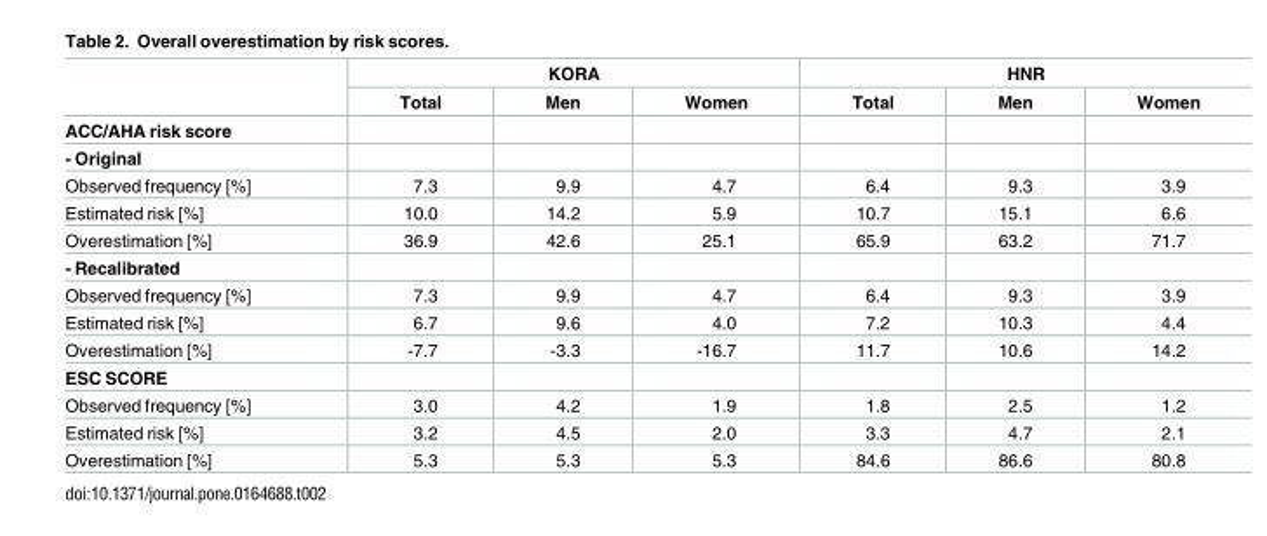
<table><thead><tr><td rowspan="2"></td><td colspan="3">KORA</td><td colspan="3">HNR</td></tr><tr><td>Total</td><td>Men</td><td>Women</td><td>Total</td><td>Men</td><td>Women</td></tr></thead><tbody><tr><td colspan="7">ACC/AHA risk score</td></tr><tr><td colspan="7">- Original</td></tr><tr><td>Observed frequency [%]</td><td>7.3</td><td>9.9</td><td>4.7</td><td>6.4</td><td>9.3</td><td>3.9</td></tr><tr><td>Estimated risk [%]</td><td>10.0</td><td>14.2</td><td>5.9</td><td>10.7</td><td>15.1</td><td>6.6</td></tr><tr><td>Overestimation [%]</td><td>36.9</td><td>42.6</td><td>25.1</td><td>65.9</td><td>63.2</td><td>71.7</td></tr><tr><td colspan="7">- Recalibrated</td></tr><tr><td>Observed frequency [%]</td><td>7.3</td><td>9.9</td><td>4.7</td><td>6.4</td><td>9.3</td><td>3.9</td></tr><tr><td>Estimated risk [%]</td><td>6.7</td><td>9.6</td><td>4.0</td><td>7.2</td><td>10.3</td><td>4.4</td></tr><tr><td>Overestimation [%]</td><td>-7.7</td><td>-3.3</td><td>-16.7</td><td>11.7</td><td>10.6</td><td>14.2</td></tr><tr><td colspan="7">ESC SCORE</td></tr><tr><td>Observed frequency [%]</td><td>3.0</td><td>4.2</td><td>1.9</td><td>1.8</td><td>2.5</td><td>1.2</td></tr><tr><td>Estimated risk [%]</td><td>3.2</td><td>4.5</td><td>2.0</td><td>3.3</td><td>4.7</td><td>2.1</td></tr><tr><td>Overestimation [%]</td><td>5.3</td><td>5.3</td><td>5.3</td><td>84.6</td><td>86.6</td><td>80.8</td></tr></tbody></table>